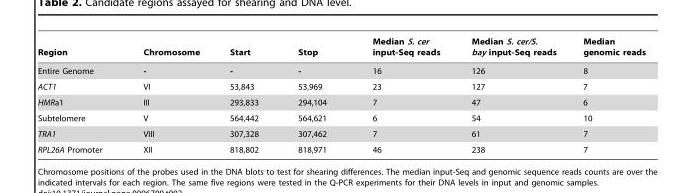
<table><thead><tr><td>Region</td><td>Chromosome</td><td>Start</td><td>Stop</td><td>Median S. cer input-Seq reads</td><td>Median S. cer/S. bay input-Seq reads</td><td>Median genomic reads</td></tr></thead><tbody><tr><td>Entire Genome</td><td>-</td><td>-</td><td>-</td><td>16</td><td>126</td><td>8</td></tr><tr><td>ACT1</td><td>VI</td><td>53,843</td><td>53,969</td><td>23</td><td>127</td><td>7</td></tr><tr><td>HMRa1</td><td>III</td><td>293,833</td><td>294,104</td><td>7</td><td>47</td><td>6</td></tr><tr><td>Subtelomere</td><td>V</td><td>564,442</td><td>564,621</td><td>6</td><td>54</td><td>10</td></tr><tr><td>TRA1</td><td>VIII</td><td>307,328</td><td>307,462</td><td>7</td><td>61</td><td>7</td></tr><tr><td>RPL26A Promoter</td><td>XII</td><td>818,802</td><td>818,971</td><td>46</td><td>238</td><td>7</td></tr></tbody></table>